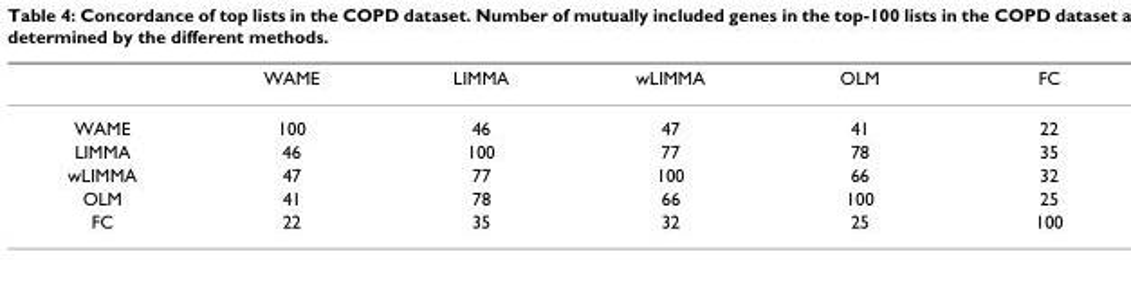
<table><thead><tr><td></td><td>WAME</td><td>LIMMA</td><td>wLIMMA</td><td>OLM</td><td>FC</td></tr></thead><tbody><tr><td>WAME</td><td>100</td><td>46</td><td>47</td><td>41</td><td>22</td></tr><tr><td>LIMMA</td><td>46</td><td>100</td><td>77</td><td>78</td><td>35</td></tr><tr><td>wLIMMA</td><td>47</td><td>77</td><td>100</td><td>66</td><td>32</td></tr><tr><td>OLM</td><td>41</td><td>78</td><td>66</td><td>100</td><td>25</td></tr><tr><td>FC</td><td>22</td><td>35</td><td>32</td><td>25</td><td>100</td></tr></tbody></table>